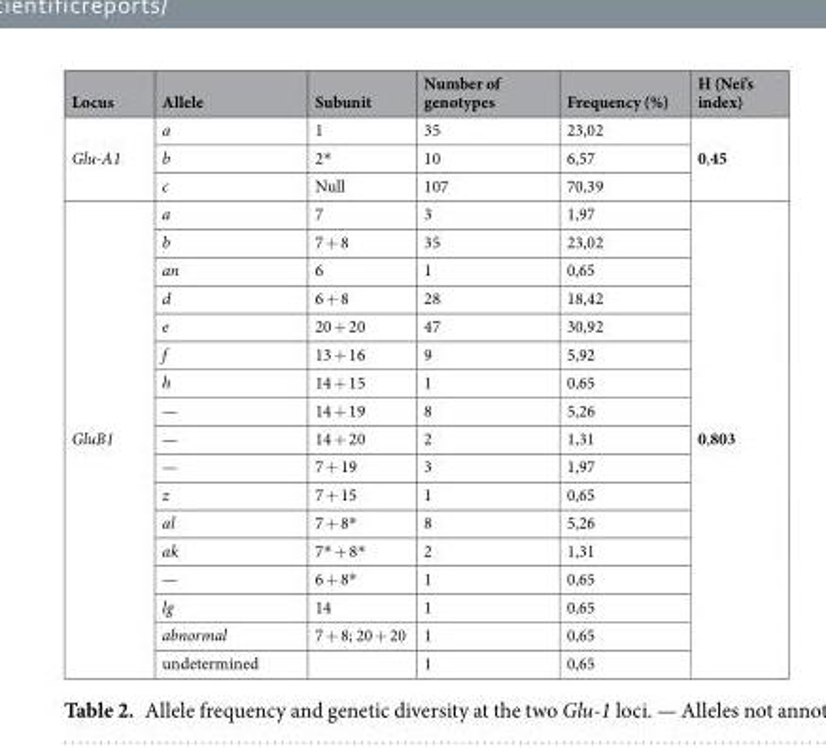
<table><thead><tr><td>Locus</td><td>Allele</td><td>Subunit</td><td>Number of genotypes</td><td>Frequency (%)</td><td>H (Nei’s index)</td></tr></thead><tbody><tr><td rowspan="3">Glu-A1</td><td>a</td><td>1</td><td>35</td><td>23,02</td><td rowspan="3">0,45</td></tr><tr><td>b</td><td>2*</td><td>10</td><td>6,57</td></tr><tr><td>c</td><td>Null</td><td>107</td><td>70,39</td></tr><tr><td rowspan="17">GluB1</td><td>a</td><td>7</td><td>3</td><td>1,97</td><td rowspan="17">0,803</td></tr><tr><td>b</td><td>7 + 8</td><td>35</td><td>23,02</td></tr><tr><td>an</td><td>6</td><td>1</td><td>0,65</td></tr><tr><td>d</td><td>6 + 8</td><td>28</td><td>18,42</td></tr><tr><td>e</td><td>20 + 20</td><td>47</td><td>30,92</td></tr><tr><td>f</td><td>13 + 16</td><td>9</td><td>5,92</td></tr><tr><td>h</td><td>14 + 15</td><td>1</td><td>0,65</td></tr><tr><td>—</td><td>14 + 19</td><td>8</td><td>5,26</td></tr><tr><td>—</td><td>14 + 20</td><td>2</td><td>1,31</td></tr><tr><td>—</td><td>7 + 19</td><td>3</td><td>1,97</td></tr><tr><td>z</td><td>7 + 15</td><td>1</td><td>0,65</td></tr><tr><td>al</td><td>7 + 8*</td><td>8</td><td>5,26</td></tr><tr><td>ak</td><td>7* + 8*</td><td>2</td><td>1,31</td></tr><tr><td>—</td><td>6 + 8*</td><td>1</td><td>0,65</td></tr><tr><td>lg</td><td>14</td><td>1</td><td>0,65</td></tr><tr><td>abnormal</td><td>7 + 8; 20 + 20</td><td>1</td><td>0,65</td></tr><tr><td>undetermined</td><td></td><td>1</td><td>0,65</td></tr></tbody></table>